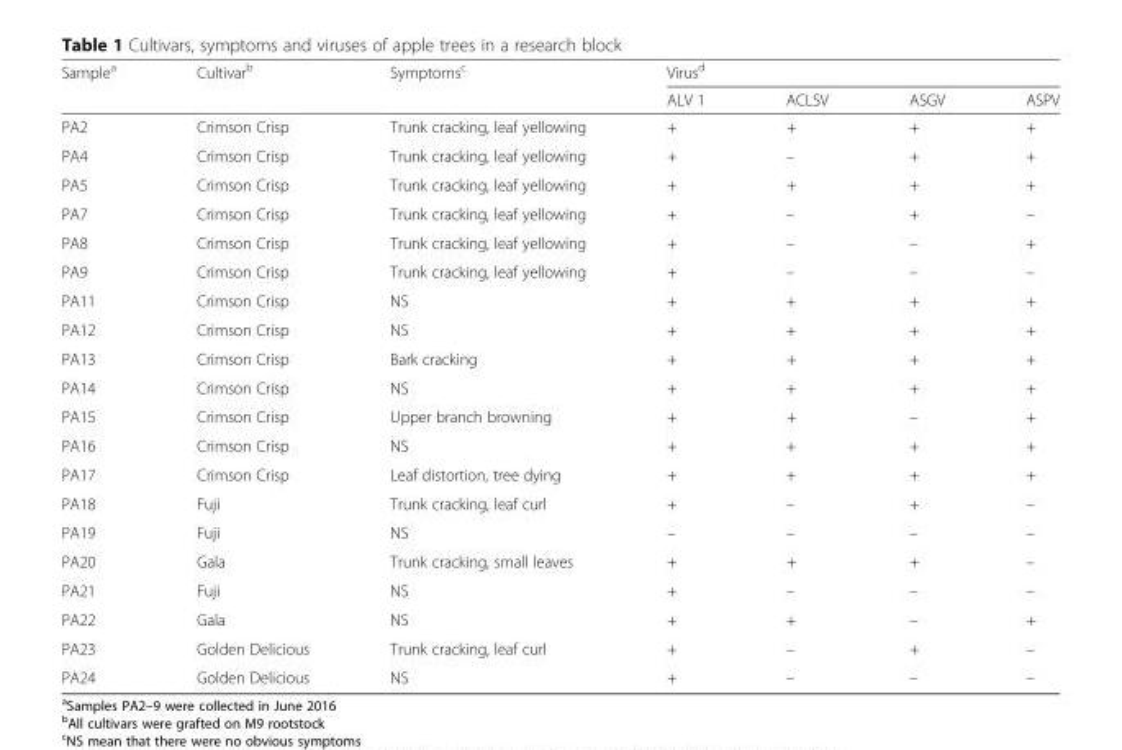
<table><thead><tr><td rowspan="2">Sample<sup>a</sup></td><td rowspan="2">Cultivar<sup>b</sup></td><td rowspan="2">Symptoms<sup>c</sup></td><td colspan="4">Virus<sup>d</sup></td></tr><tr><td>ALV 1</td><td>ACLSV</td><td>ASGV</td><td>ASPV</td></tr></thead><tbody><tr><td>PA2</td><td>Crimson Crisp</td><td>Trunk cracking, leaf yellowing</td><td>+</td><td>+</td><td>+</td><td>+</td></tr><tr><td>PA4</td><td>Crimson Crisp</td><td>Trunk cracking, leaf yellowing</td><td>+</td><td>–</td><td>+</td><td>+</td></tr><tr><td>PA5</td><td>Crimson Crisp</td><td>Trunk cracking, leaf yellowing</td><td>+</td><td>+</td><td>+</td><td>+</td></tr><tr><td>PA7</td><td>Crimson Crisp</td><td>Trunk cracking, leaf yellowing</td><td>+</td><td>–</td><td>+</td><td>–</td></tr><tr><td>PA8</td><td>Crimson Crisp</td><td>Trunk cracking, leaf yellowing</td><td>+</td><td>–</td><td>–</td><td>+</td></tr><tr><td>PA9</td><td>Crimson Crisp</td><td>Trunk cracking, leaf yellowing</td><td>+</td><td>–</td><td>–</td><td>–</td></tr><tr><td>PA11</td><td>Crimson Crisp</td><td>NS</td><td>+</td><td>+</td><td>+</td><td>+</td></tr><tr><td>PA12</td><td>Crimson Crisp</td><td>NS</td><td>+</td><td>+</td><td>+</td><td>+</td></tr><tr><td>PA13</td><td>Crimson Crisp</td><td>Bark cracking</td><td>+</td><td>+</td><td>+</td><td>+</td></tr><tr><td>PA14</td><td>Crimson Crisp</td><td>NS</td><td>+</td><td>+</td><td>+</td><td>+</td></tr><tr><td>PA15</td><td>Crimson Crisp</td><td>Upper branch browning</td><td>+</td><td>+</td><td>–</td><td>+</td></tr><tr><td>PA16</td><td>Crimson Crisp</td><td>NS</td><td>+</td><td>+</td><td>+</td><td>+</td></tr><tr><td>PA17</td><td>Crimson Crisp</td><td>Leaf distortion, tree dying</td><td>+</td><td>+</td><td>+</td><td>+</td></tr><tr><td>PA18</td><td>Fuji</td><td>Trunk cracking, leaf curl</td><td>+</td><td>–</td><td>+</td><td>–</td></tr><tr><td>PA19</td><td>Fuji</td><td>NS</td><td>–</td><td>–</td><td>–</td><td>–</td></tr><tr><td>PA20</td><td>Gala</td><td>Trunk cracking, small leaves</td><td>+</td><td>+</td><td>+</td><td>–</td></tr><tr><td>PA21</td><td>Fuji</td><td>NS</td><td>+</td><td>–</td><td>–</td><td>–</td></tr><tr><td>PA22</td><td>Gala</td><td>NS</td><td>+</td><td>+</td><td>–</td><td>+</td></tr><tr><td>PA23</td><td>Golden Delicious</td><td>Trunk cracking, leaf curl</td><td>+</td><td>–</td><td>+</td><td>–</td></tr><tr><td>PA24</td><td>Golden Delicious</td><td>NS</td><td>+</td><td>–</td><td>–</td><td>–</td></tr></tbody></table>